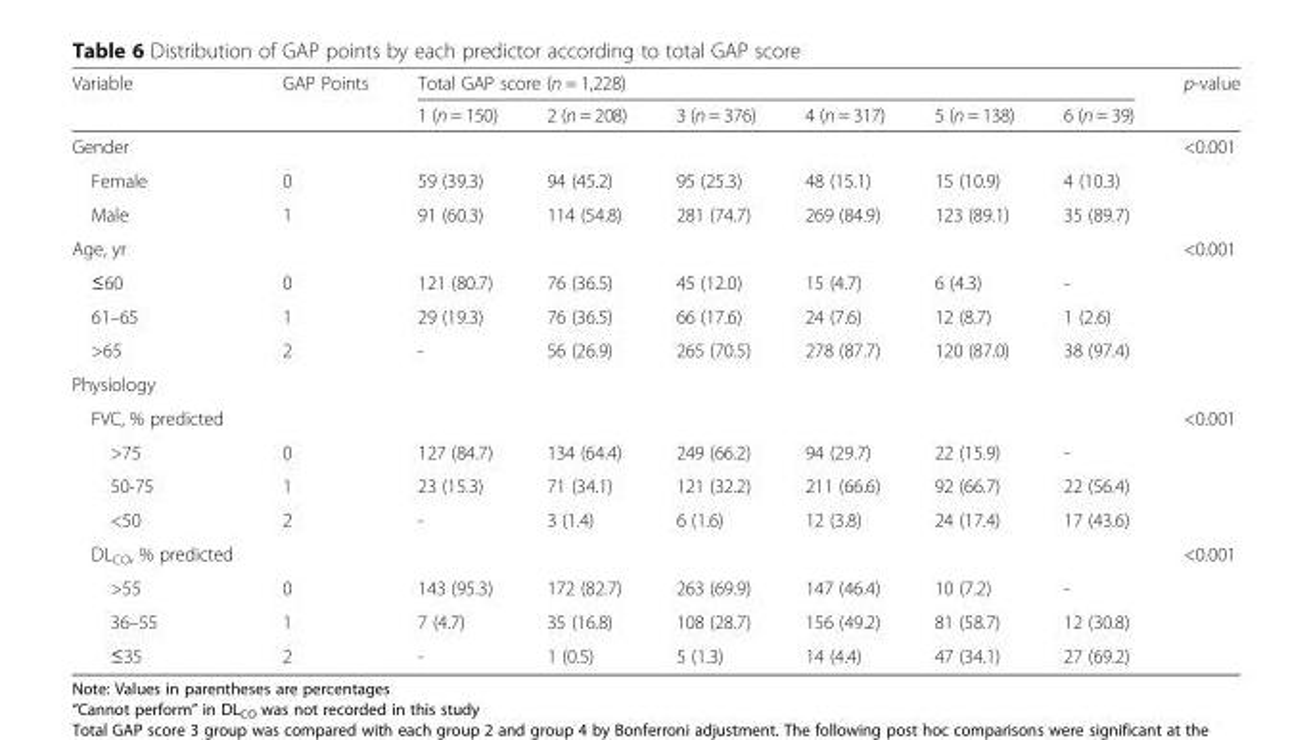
<table><thead><tr><td rowspan="2">Variable</td><td rowspan="2">GAP Points</td><td colspan="6">Total GAP score (n = 1,228)</td><td rowspan="2">p-value</td></tr><tr><td>1 (n = 150)</td><td>2 (n = 208)</td><td>3 (n = 376)</td><td>4 (n = 317)</td><td>5 (n = 138)</td><td>6 (n = 39)</td></tr></thead><tbody><tr><td>Gender</td><td></td><td></td><td></td><td></td><td></td><td></td><td></td><td>&lt;0.001</td></tr><tr><td>Female</td><td>0</td><td>59 (39.3)</td><td>94 (45.2)</td><td>95 (25.3)</td><td>48 (15.1)</td><td>15 (10.9)</td><td>4 (10.3)</td><td></td></tr><tr><td>Male</td><td>1</td><td>91 (60.3)</td><td>114 (54.8)</td><td>281 (74.7)</td><td>269 (84.9)</td><td>123 (89.1)</td><td>35 (89.7)</td><td></td></tr><tr><td>Age, yr</td><td></td><td></td><td></td><td></td><td></td><td></td><td></td><td>&lt;0.001</td></tr><tr><td>≤60</td><td>0</td><td>121 (80.7)</td><td>76 (36.5)</td><td>45 (12.0)</td><td>15 (4.7)</td><td>6 (4.3)</td><td>-</td><td></td></tr><tr><td>61–65</td><td>1</td><td>29 (19.3)</td><td>76 (36.5)</td><td>66 (17.6)</td><td>24 (7.6)</td><td>12 (8.7)</td><td>1 (2.6)</td><td></td></tr><tr><td>&gt;65</td><td>2</td><td>-</td><td>56 (26.9)</td><td>265 (70.5)</td><td>278 (87.7)</td><td>120 (87.0)</td><td>38 (97.4)</td><td></td></tr><tr><td colspan="9">Physiology</td></tr><tr><td>FVC, % predicted</td><td></td><td></td><td></td><td></td><td></td><td></td><td></td><td>&lt;0.001</td></tr><tr><td>&gt;75</td><td>0</td><td>127 (84.7)</td><td>134 (64.4)</td><td>249 (66.2)</td><td>94 (29.7)</td><td>22 (15.9)</td><td>-</td><td></td></tr><tr><td>50-75</td><td>1</td><td>23 (15.3)</td><td>71 (34.1)</td><td>121 (32.2)</td><td>211 (66.6)</td><td>92 (66.7)</td><td>22 (56.4)</td><td></td></tr><tr><td>&lt;50</td><td>2</td><td>-</td><td>3 (1.4)</td><td>6 (1.6)</td><td>12 (3.8)</td><td>24 (17.4)</td><td>17 (43.6)</td><td></td></tr><tr><td>DL<sub>CO</sub>, % predicted</td><td></td><td></td><td></td><td></td><td></td><td></td><td></td><td>&lt;0.001</td></tr><tr><td>&gt;55</td><td>0</td><td>143 (95.3)</td><td>172 (82.7)</td><td>263 (69.9)</td><td>147 (46.4)</td><td>10 (7.2)</td><td>-</td><td></td></tr><tr><td>36–55</td><td>1</td><td>7 (4.7)</td><td>35 (16.8)</td><td>108 (28.7)</td><td>156 (49.2)</td><td>81 (58.7)</td><td>12 (30.8)</td><td></td></tr><tr><td>≤35</td><td>2</td><td>-</td><td>1 (0.5)</td><td>5 (1.3)</td><td>14 (4.4)</td><td>47 (34.1)</td><td>27 (69.2)</td><td></td></tr></tbody></table>